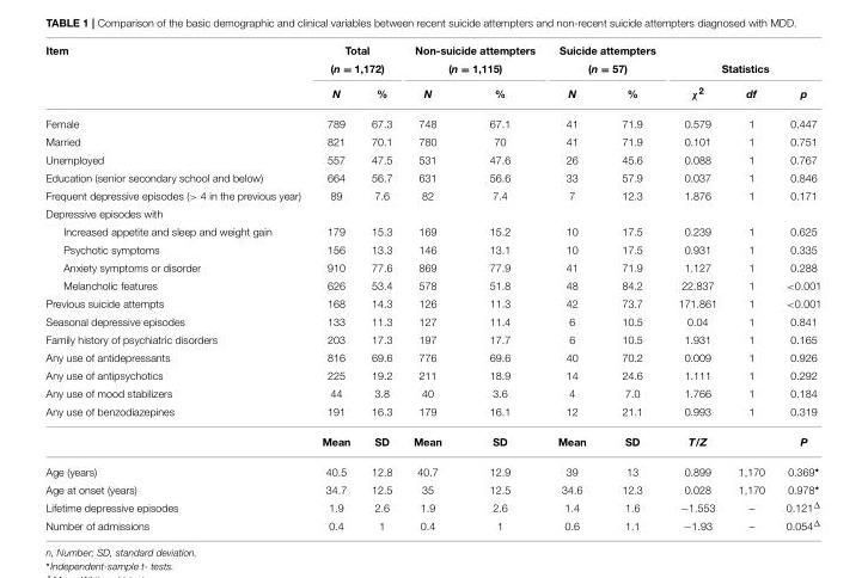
<table><thead><tr><td rowspan="3">Item</td><td rowspan="2" colspan="2">Total (n = 1,172)</td><td rowspan="2" colspan="2">Non-suicide attempters (n = 1,115)</td><td rowspan="2" colspan="2">Suicide attempters (n = 57)</td><td></td><td></td><td></td></tr><tr><td colspan="3">Statistics</td></tr><tr><td>N</td><td>%</td><td>N</td><td>%</td><td>N</td><td>%</td><td>χ<sup>2</sup></td><td>df</td><td>p</td></tr></thead><tbody><tr><td>Female</td><td>789</td><td>67.3</td><td>748</td><td>67.1</td><td>41</td><td>71.9</td><td>0.579</td><td>1</td><td>0.447</td></tr><tr><td>Married</td><td>821</td><td>70.1</td><td>780</td><td>70</td><td>41</td><td>71.9</td><td>0.101</td><td>1</td><td>0.751</td></tr><tr><td>Unemployed</td><td>557</td><td>47.5</td><td>531</td><td>47.6</td><td>26</td><td>45.6</td><td>0.088</td><td>1</td><td>0.767</td></tr><tr><td>Education (senior secondary school and below)</td><td>664</td><td>56.7</td><td>631</td><td>56.6</td><td>33</td><td>57.9</td><td>0.037</td><td>1</td><td>0.846</td></tr><tr><td>Frequent depressive episodes (&gt; 4 in the previous year)</td><td>89</td><td>7.6</td><td>82</td><td>7.4</td><td>7</td><td>12.3</td><td>1.876</td><td>1</td><td>0.171</td></tr><tr><td colspan="10">Depressive episodes with</td></tr><tr><td>Increased appetite and sleep and weight gain</td><td>179</td><td>15.3</td><td>169</td><td>15.2</td><td>10</td><td>17.5</td><td>0.239</td><td>1</td><td>0.625</td></tr><tr><td>Psychotic symptoms</td><td>156</td><td>13.3</td><td>146</td><td>13.1</td><td>10</td><td>17.5</td><td>0.931</td><td>1</td><td>0.335</td></tr><tr><td>Anxiety symptoms or disorder</td><td>910</td><td>77.6</td><td>869</td><td>77.9</td><td>41</td><td>71.9</td><td>1.127</td><td>1</td><td>0.288</td></tr><tr><td>Melancholic features</td><td>626</td><td>53.4</td><td>578</td><td>51.8</td><td>48</td><td>84.2</td><td>22.837</td><td>1</td><td>&lt;0.001</td></tr><tr><td>Previous suicide attempts</td><td>168</td><td>14.3</td><td>126</td><td>11.3</td><td>42</td><td>73.7</td><td>171.861</td><td>1</td><td>&lt;0.001</td></tr><tr><td>Seasonal depressive episodes</td><td>133</td><td>11.3</td><td>127</td><td>11.4</td><td>6</td><td>10.5</td><td>0.04</td><td>1</td><td>0.841</td></tr><tr><td>Family history of psychiatric disorders</td><td>203</td><td>17.3</td><td>197</td><td>17.7</td><td>6</td><td>10.5</td><td>1.931</td><td>1</td><td>0.165</td></tr><tr><td>Any use of antidepressants</td><td>816</td><td>69.6</td><td>776</td><td>69.6</td><td>40</td><td>70.2</td><td>0.009</td><td>1</td><td>0.926</td></tr><tr><td>Any use of antipsychotics</td><td>225</td><td>19.2</td><td>211</td><td>18.9</td><td>14</td><td>24.6</td><td>1.111</td><td>1</td><td>0.292</td></tr><tr><td>Any use of mood stabilizers</td><td>44</td><td>3.8</td><td>40</td><td>3.6</td><td>4</td><td>7.0</td><td>1.766</td><td>1</td><td>0.184</td></tr><tr><td rowspan="2">Any use of benzodiazepines</td><td>191</td><td>16.3</td><td>179</td><td>16.1</td><td>12</td><td>21.1</td><td>0.993</td><td>1</td><td>0.319</td></tr><tr><td>Mean</td><td>SD</td><td>Mean</td><td>SD</td><td>Mean</td><td>SD</td><td>T/Z</td><td></td><td>P</td></tr><tr><td>Age (years)</td><td>40.5</td><td>12.8</td><td>40.7</td><td>12.9</td><td>39</td><td>13</td><td>0.899</td><td>1,170</td><td>0.369<sup>⋆</sup></td></tr><tr><td>Age at onset (years)</td><td>34.7</td><td>12.5</td><td>35</td><td>12.5</td><td>34.6</td><td>12.3</td><td>0.028</td><td>1,170</td><td>0.978<sup>⋆</sup></td></tr><tr><td>Lifetime depressive episodes</td><td>1.9</td><td>2.6</td><td>1.9</td><td>2.6</td><td>1.4</td><td>1.6</td><td>−1.553</td><td>–</td><td>0.121<sup>Δ</sup></td></tr><tr><td>Number of admissions</td><td>0.4</td><td>1</td><td>0.4</td><td>1</td><td>0.6</td><td>1.1</td><td>−1.93</td><td>–</td><td>0.054<sup>Δ</sup></td></tr></tbody></table>